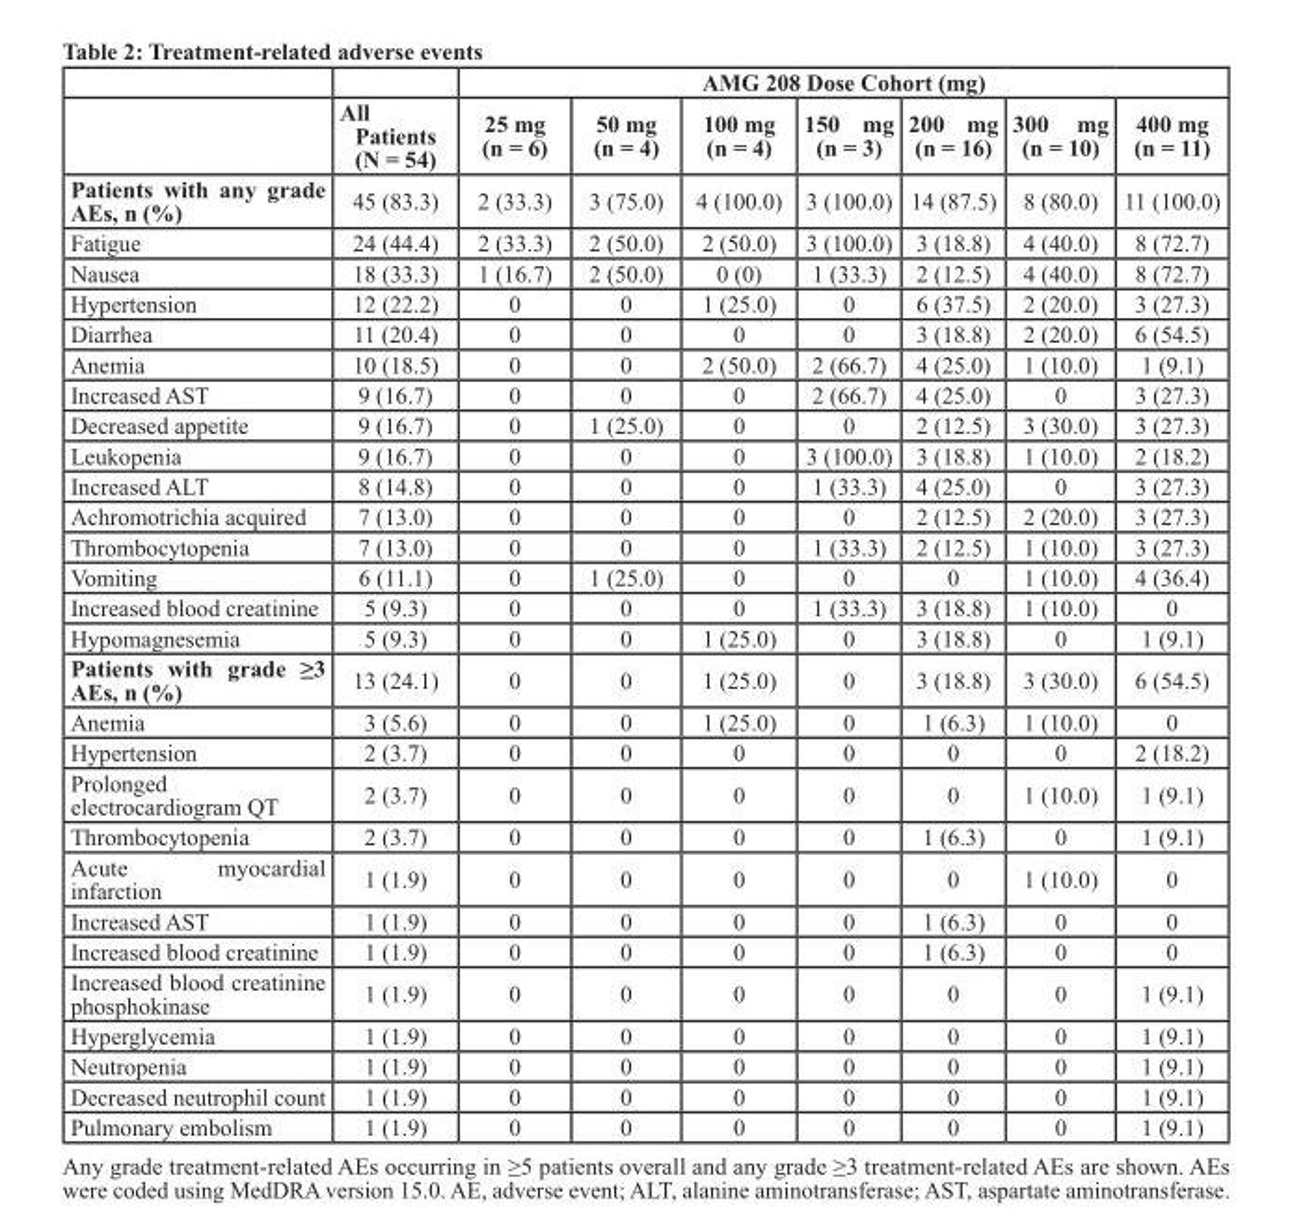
<table><thead><tr><td rowspan="2"></td><td rowspan="2">All Patients (N = 54)</td><td colspan="7">AMG 208 Dose Cohort (mg)</td></tr><tr><td>25 mg (n = 6)</td><td>50 mg (n = 4)</td><td>100 mg (n = 4)</td><td>150 mg (n = 3)</td><td>200 mg (n = 16)</td><td>300 mg (n = 10)</td><td>400 mg (n = 11)</td></tr></thead><tbody><tr><td>Patients with any grade AEs, n (%)</td><td>45 (83.3)</td><td>2 (33.3)</td><td>3 (75.0)</td><td>4 (100.0)</td><td>3 (100.0)</td><td>14 (87.5)</td><td>8 (80.0)</td><td>11 (100.0)</td></tr><tr><td>Fatigue</td><td>24 (44.4)</td><td>2 (33.3)</td><td>2 (50.0)</td><td>2 (50.0)</td><td>3 (100.0)</td><td>3 (18.8)</td><td>4 (40.0)</td><td>8 (72.7)</td></tr><tr><td>Nausea</td><td>18 (33.3)</td><td>1 (16.7)</td><td>2 (50.0)</td><td>0 (0)</td><td>1 (33.3)</td><td>2 (12.5)</td><td>4 (40.0)</td><td>8 (72.7)</td></tr><tr><td>Hypertension</td><td>12 (22.2)</td><td>0</td><td>0</td><td>1 (25.0)</td><td>0</td><td>6 (37.5)</td><td>2 (20.0)</td><td>3 (27.3)</td></tr><tr><td>Diarrhea</td><td>11 (20.4)</td><td>0</td><td>0</td><td>0</td><td>0</td><td>3 (18.8)</td><td>2 (20.0)</td><td>6 (54.5)</td></tr><tr><td>Anemia</td><td>10 (18.5)</td><td>0</td><td>0</td><td>2 (50.0)</td><td>2 (66.7)</td><td>4 (25.0)</td><td>1 (10.0)</td><td>1 (9.1)</td></tr><tr><td>Increased AST</td><td>9 (16.7)</td><td>0</td><td>0</td><td>0</td><td>2 (66.7)</td><td>4 (25.0)</td><td>0</td><td>3 (27.3)</td></tr><tr><td>Decreased appetite</td><td>9 (16.7)</td><td>0</td><td>1 (25.0)</td><td>0</td><td>0</td><td>2 (12.5)</td><td>3 (30.0)</td><td>3 (27.3)</td></tr><tr><td>Leukopenia</td><td>9 (16.7)</td><td>0</td><td>0</td><td>0</td><td>3 (100.0)</td><td>3 (18.8)</td><td>1 (10.0)</td><td>2 (18.2)</td></tr><tr><td>Increased ALT</td><td>8 (14.8)</td><td>0</td><td>0</td><td>0</td><td>1 (33.3)</td><td>4 (25.0)</td><td>0</td><td>3 (27.3)</td></tr><tr><td>Achromotrichia acquired</td><td>7 (13.0)</td><td>0</td><td>0</td><td>0</td><td>0</td><td>2 (12.5)</td><td>2 (20.0)</td><td>3 (27.3)</td></tr><tr><td>Thrombocytopenia</td><td>7 (13.0)</td><td>0</td><td>0</td><td>0</td><td>1 (33.3)</td><td>2 (12.5)</td><td>1 (10.0)</td><td>3 (27.3)</td></tr><tr><td>Vomiting</td><td>6 (11.1)</td><td>0</td><td>1 (25.0)</td><td>0</td><td>0</td><td>0</td><td>1 (10.0)</td><td>4 (36.4)</td></tr><tr><td>Increased blood creatinine</td><td>5 (9.3)</td><td>0</td><td>0</td><td>0</td><td>1 (33.3)</td><td>3 (18.8)</td><td>1 (10.0)</td><td>0</td></tr><tr><td>Hypomagnesemia</td><td>5 (9.3)</td><td>0</td><td>0</td><td>1 (25.0)</td><td>0</td><td>3 (18.8)</td><td>0</td><td>1 (9.1)</td></tr><tr><td>Patients with grade ≥3 AEs, n (%)</td><td>13 (24.1)</td><td>0</td><td>0</td><td>1 (25.0)</td><td>0</td><td>3 (18.8)</td><td>3 (30.0)</td><td>6 (54.5)</td></tr><tr><td>Anemia</td><td>3 (5.6)</td><td>0</td><td>0</td><td>1 (25.0)</td><td>0</td><td>1 (6.3)</td><td>1 (10.0)</td><td>0</td></tr><tr><td>Hypertension</td><td>2 (3.7)</td><td>0</td><td>0</td><td>0</td><td>0</td><td>0</td><td>0</td><td>2 (18.2)</td></tr><tr><td>Prolonged electrocardiogram QT</td><td>2 (3.7)</td><td>0</td><td>0</td><td>0</td><td>0</td><td>0</td><td>1 (10.0)</td><td>1 (9.1)</td></tr><tr><td>Thrombocytopenia</td><td>2 (3.7)</td><td>0</td><td>0</td><td>0</td><td>0</td><td>1 (6.3)</td><td>0</td><td>1 (9.1)</td></tr><tr><td>Acute myocardial infarction</td><td>1 (1.9)</td><td>0</td><td>0</td><td>0</td><td>0</td><td>0</td><td>1 (10.0)</td><td>0</td></tr><tr><td>Increased AST</td><td>1 (1.9)</td><td>0</td><td>0</td><td>0</td><td>0</td><td>1 (6.3)</td><td>0</td><td>0</td></tr><tr><td>Increased blood creatinine</td><td>1 (1.9)</td><td>0</td><td>0</td><td>0</td><td>0</td><td>1 (6.3)</td><td>0</td><td>0</td></tr><tr><td>Increased blood creatinine phosphokinase</td><td>1 (1.9)</td><td>0</td><td>0</td><td>0</td><td>0</td><td>0</td><td>0</td><td>1 (9.1)</td></tr><tr><td>Hyperglycemia</td><td>1 (1.9)</td><td>0</td><td>0</td><td>0</td><td>0</td><td>0</td><td>0</td><td>1 (9.1)</td></tr><tr><td>Neutropenia</td><td>1 (1.9)</td><td>0</td><td>0</td><td>0</td><td>0</td><td>0</td><td>0</td><td>1 (9.1)</td></tr><tr><td>Decreased neutrophil count</td><td>1 (1.9)</td><td>0</td><td>0</td><td>0</td><td>0</td><td>0</td><td>0</td><td>1 (9.1)</td></tr><tr><td>Pulmonary embolism</td><td>1 (1.9)</td><td>0</td><td>0</td><td>0</td><td>0</td><td>0</td><td>0</td><td>1 (9.1)</td></tr></tbody></table>